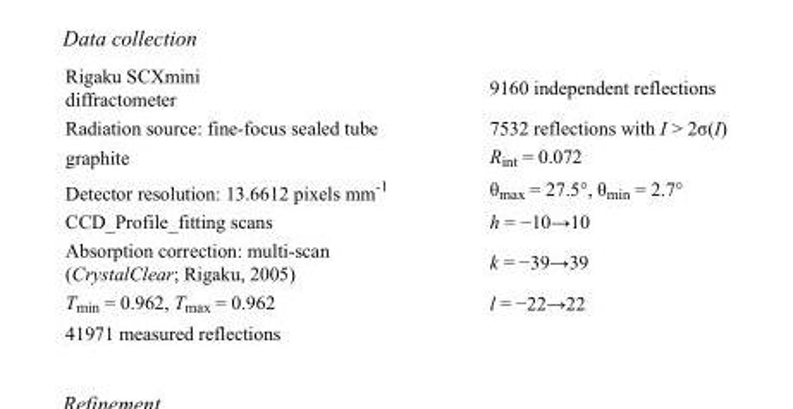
<table><tbody><tr><td>Rigaku SCXmini diffractometer</td><td>9160 independent reflections</td></tr><tr><td>Radiation source: fine-focus sealed tube</td><td>7532 reflections with I &gt; 2σ(I)</td></tr><tr><td>graphite</td><td>R<sub>int</sub> = 0.072</td></tr><tr><td>Detector resolution: 13.6612 pixels mm<sup>-1</sup></td><td>θ<sub>max</sub> = 27.5°, θ<sub>min</sub> = 2.7°</td></tr><tr><td>CCD_Profile_fitting scans</td><td>h = −10→10</td></tr><tr><td>Absorption correction: multi-scan (CrystalClear; Rigaku, 2005)</td><td>k = −39→39</td></tr><tr><td>T<sub>min</sub> = 0.962, T<sub>max</sub> = 0.962</td><td>l = −22→22</td></tr><tr><td>41971 measured reflections</td><td></td></tr></tbody></table>